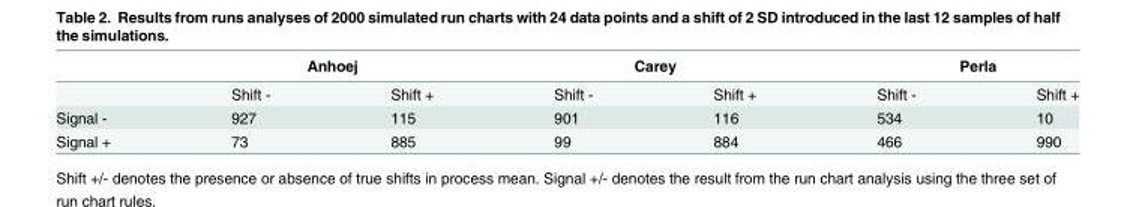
<table><thead><tr><td rowspan="2"></td><td colspan="2">Anhoej</td><td colspan="2">Carey</td><td colspan="2">Perla</td></tr><tr><td>Shift -</td><td>Shift +</td><td>Shift -</td><td>Shift +</td><td>Shift -</td><td>Shift +</td></tr></thead><tbody><tr><td>Signal -</td><td>927</td><td>115</td><td>901</td><td>116</td><td>534</td><td>10</td></tr><tr><td>Signal +</td><td>73</td><td>885</td><td>99</td><td>884</td><td>466</td><td>990</td></tr></tbody></table>